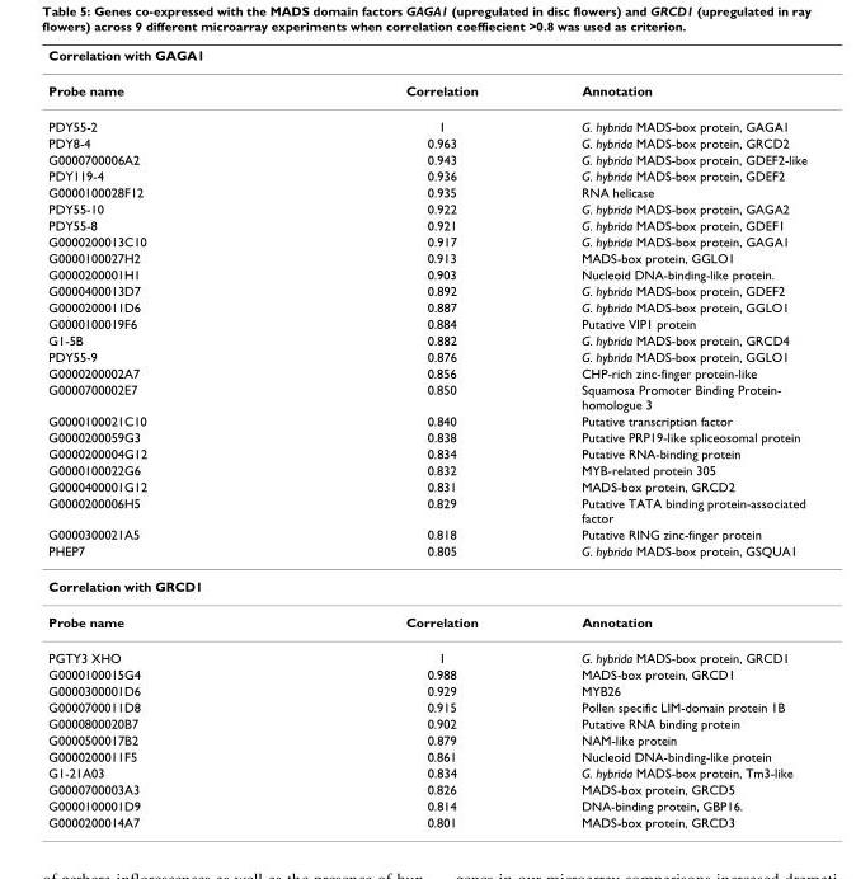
<table><thead><tr><td colspan="3">Correlation with GAGA1</td></tr><tr><td>Probe name</td><td>Correlation</td><td>Annotation</td></tr></thead><tbody><tr><td>PDY55-2</td><td>1</td><td>G. hybrida MADS-box protein, GAGA1</td></tr><tr><td>PDY8-4</td><td>0.963</td><td>G. hybrida MADS-box protein, GRCD2</td></tr><tr><td>G0000700006A2</td><td>0.943</td><td>G. hybrida MADS-box protein, GDEF2-like</td></tr><tr><td>PDY119-4</td><td>0.936</td><td>G. hybrida MADS-box protein, GDEF2</td></tr><tr><td>G0000100028F12</td><td>0.935</td><td>RNA helicase</td></tr><tr><td>PDY55-10</td><td>0.922</td><td>G. hybrida MADS-box protein, GAGA2</td></tr><tr><td>PDY55-8</td><td>0.921</td><td>G. hybrida MADS-box protein, GDEF1</td></tr><tr><td>G0000200013C10</td><td>0.917</td><td>G. hybrida MADS-box protein, GAGA1</td></tr><tr><td>G0000100027H2</td><td>0.913</td><td>MADS-box protein, GGLO1</td></tr><tr><td>G0000200001H1</td><td>0.903</td><td>Nucleoid DNA-binding-like protein.</td></tr><tr><td>G0000400013D7</td><td>0.892</td><td>G. hybrida MADS-box protein, GDEF2</td></tr><tr><td>G0000200011D6</td><td>0.887</td><td>G. hybrida MADS-box protein, GGLO1</td></tr><tr><td>G0000100019F6</td><td>0.884</td><td>Putative VIP1 protein</td></tr><tr><td>G1-5B</td><td>0.882</td><td>G. hybrida MADS-box protein, GRCD4</td></tr><tr><td>PDY55-9</td><td>0.876</td><td>G. hybrida MADS-box protein, GGLO1</td></tr><tr><td>G0000200002A7</td><td>0.856</td><td>CHP-rich zinc-finger protein-like</td></tr><tr><td>G0000700002E7</td><td>0.850</td><td>Squamosa Promoter Binding Protein- homologue 3</td></tr><tr><td>G0000100021C10</td><td>0.840</td><td>Putative transcription factor</td></tr><tr><td>G0000200059G3</td><td>0.838</td><td>Putative PRP19-like spliceosomal protein</td></tr><tr><td>G0000200004G12</td><td>0.834</td><td>Putative RNA-binding protein</td></tr><tr><td>G0000100022G6</td><td>0.832</td><td>MYB-related protein 305</td></tr><tr><td>G0000400001G12</td><td>0.831</td><td>MADS-box protein, GRCD2</td></tr><tr><td>G0000200006H5</td><td>0.829</td><td>Putative TATA binding protein-associated factor</td></tr><tr><td>G0000300021A5</td><td>0.818</td><td>Putative RING zinc-finger protein</td></tr><tr><td>PHEP7</td><td>0.805</td><td>G. hybrida MADS-box protein, GSQUA1</td></tr><tr><td colspan="3">Correlation with GRCD1</td></tr><tr><td>Probe name</td><td>Correlation</td><td>Annotation</td></tr><tr><td>PGTY3 XHO</td><td>1</td><td>G. hybrida MADS-box protein, GRCD1</td></tr><tr><td>G0000100015G4</td><td>0.988</td><td>MADS-box protein, GRCD1</td></tr><tr><td>G0000300001D6</td><td>0.929</td><td>MYB26</td></tr><tr><td>G0000700011D8</td><td>0.915</td><td>Pollen specific LIM-domain protein 1B</td></tr><tr><td>G0000800020B7</td><td>0.902</td><td>Putative RNA binding protein</td></tr><tr><td>G0000500017B2</td><td>0.879</td><td>NAM-like protein</td></tr><tr><td>G0000200011F5</td><td>0.861</td><td>Nucleoid DNA-binding-like protein</td></tr><tr><td>G1-21A03</td><td>0.834</td><td>G. hybrida MADS-box protein, Tm3-like</td></tr><tr><td>G0000700003A3</td><td>0.826</td><td>MADS-box protein, GRCD5</td></tr><tr><td>G0000100001D9</td><td>0.814</td><td>DNA-binding protein, GBP16.</td></tr><tr><td>G0000200014A7</td><td>0.801</td><td>MADS-box protein, GRCD3</td></tr></tbody></table>